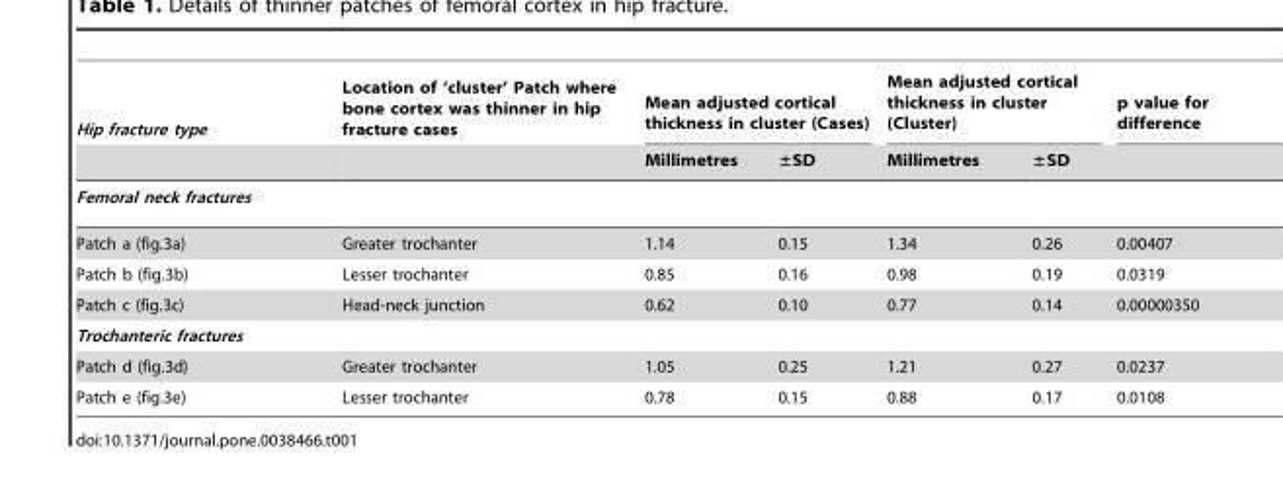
<table><thead><tr><td rowspan="2">Hip fracture type</td><td rowspan="2">Location of ‘cluster’ Patch where bone cortex was thinner in hip fracture cases</td><td colspan="2">Mean adjusted cortical thickness in cluster (Cases)</td><td colspan="2">Mean adjusted cortical thickness in cluster (Cluster)</td><td rowspan="2">p value for difference</td></tr><tr><td>Millimetres</td><td>±SD</td><td>Millimetres</td><td>±SD</td></tr></thead><tbody><tr><td colspan="7">Femoral neck fractures</td></tr><tr><td>Patch a (fig.3a)</td><td>Greater trochanter</td><td>1.14</td><td>0.15</td><td>1.34</td><td>0.26</td><td>0.00407</td></tr><tr><td>Patch b (fig.3b)</td><td>Lesser trochanter</td><td>0.85</td><td>0.16</td><td>0.98</td><td>0.19</td><td>0.0319</td></tr><tr><td>Patch c (fig.3c)</td><td>Head-neck junction</td><td>0.62</td><td>0.10</td><td>0.77</td><td>0.14</td><td>0.00000350</td></tr><tr><td colspan="7">Trochanteric fractures</td></tr><tr><td>Patch d (fig.3d)</td><td>Greater trochanter</td><td>1.05</td><td>0.25</td><td>1.21</td><td>0.27</td><td>0.0237</td></tr><tr><td>Patch e (fig.3e)</td><td>Lesser trochanter</td><td>0.78</td><td>0.15</td><td>0.88</td><td>0.17</td><td>0.0108</td></tr></tbody></table>